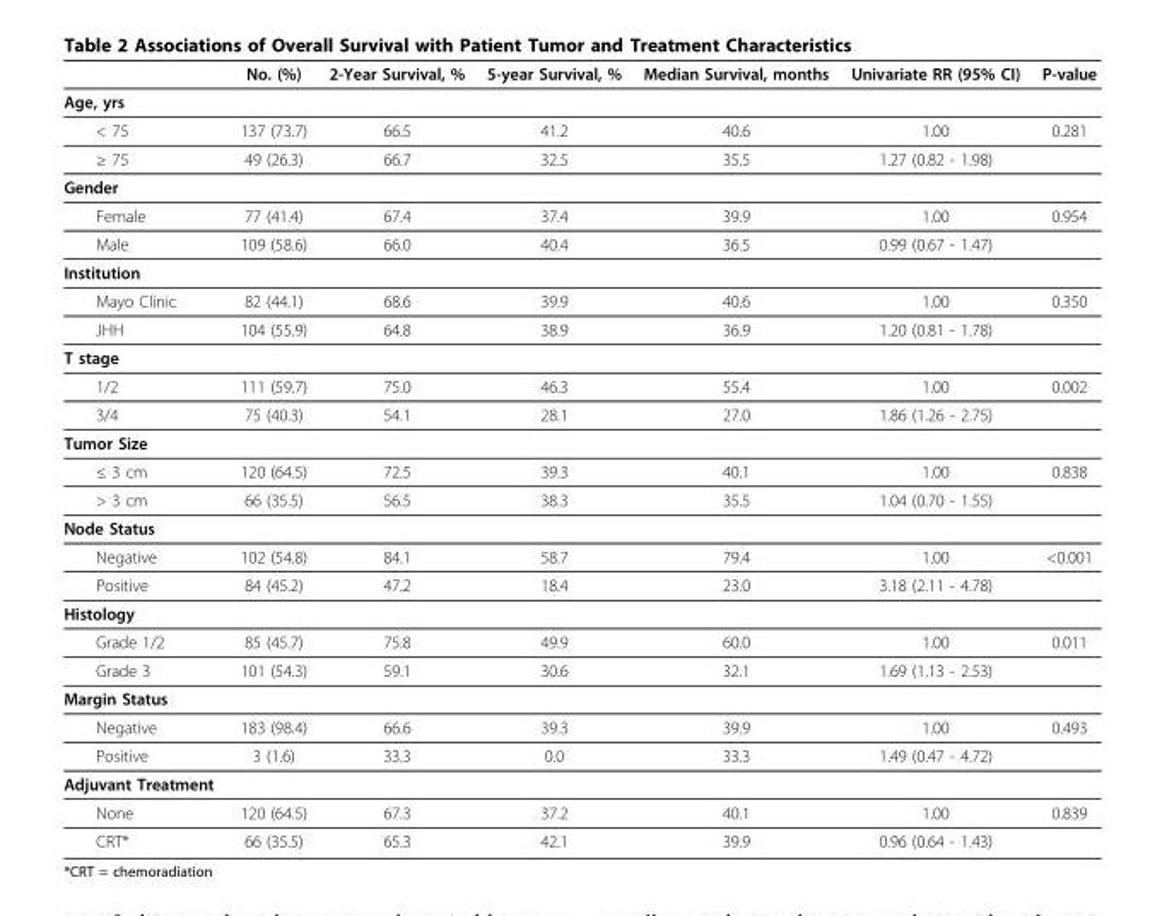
<table><thead><tr><td></td><td>No. (%)</td><td>2-Year Survival, %</td><td>5-year Survival, %</td><td>Median Survival, months</td><td>Univariate RR (95% CI)</td><td>P-value</td></tr></thead><tbody><tr><td colspan="7">Age, yrs</td></tr><tr><td>&lt; 75</td><td>137 (73.7)</td><td>66.5</td><td>41.2</td><td>40.6</td><td>1.00</td><td>0.281</td></tr><tr><td>≥ 75</td><td>49 (26.3)</td><td>66.7</td><td>32.5</td><td>35.5</td><td>1.27 (0.82 - 1.98)</td><td></td></tr><tr><td colspan="7">Gender</td></tr><tr><td>Female</td><td>77 (41.4)</td><td>67.4</td><td>37.4</td><td>39.9</td><td>1.00</td><td>0.954</td></tr><tr><td>Male</td><td>109 (58.6)</td><td>66.0</td><td>40.4</td><td>36.5</td><td>0.99 (0.67 - 1.47)</td><td></td></tr><tr><td colspan="7">Institution</td></tr><tr><td>Mayo Clinic</td><td>82 (44.1)</td><td>68.6</td><td>39.9</td><td>40.6</td><td>1.00</td><td>0.350</td></tr><tr><td>JHH</td><td>104 (55.9)</td><td>64.8</td><td>38.9</td><td>36.9</td><td>1.20 (0.81 - 1.78)</td><td></td></tr><tr><td colspan="7">T stage</td></tr><tr><td>1/2</td><td>111 (59.7)</td><td>75.0</td><td>46.3</td><td>55.4</td><td>1.00</td><td>0.002</td></tr><tr><td>3/4</td><td>75 (40.3)</td><td>54.1</td><td>28.1</td><td>27.0</td><td>1.86 (1.26 - 2.75)</td><td></td></tr><tr><td colspan="7">Tumor Size</td></tr><tr><td>≤ 3 cm</td><td>120 (64.5)</td><td>72.5</td><td>39.3</td><td>40.1</td><td>1.00</td><td>0.838</td></tr><tr><td>&gt; 3 cm</td><td>66 (35.5)</td><td>56.5</td><td>38.3</td><td>35.5</td><td>1.04 (0.70 - 1.55)</td><td></td></tr><tr><td colspan="7">Node Status</td></tr><tr><td>Negative</td><td>102 (54.8)</td><td>84.1</td><td>58.7</td><td>79.4</td><td>1.00</td><td>&lt;0.001</td></tr><tr><td>Positive</td><td>84 (45.2)</td><td>47.2</td><td>18.4</td><td>23.0</td><td>3.18 (2.11 - 4.78)</td><td></td></tr><tr><td colspan="7">Histology</td></tr><tr><td>Grade 1/2</td><td>85 (45.7)</td><td>75.8</td><td>49.9</td><td>60.0</td><td>1.00</td><td>0.011</td></tr><tr><td>Grade 3</td><td>101 (54.3)</td><td>59.1</td><td>30.6</td><td>32.1</td><td>1.69 (1.13 - 2.53)</td><td></td></tr><tr><td colspan="7">Margin Status</td></tr><tr><td>Negative</td><td>183 (98.4)</td><td>66.6</td><td>39.3</td><td>39.9</td><td>1.00</td><td>0.493</td></tr><tr><td>Positive</td><td>3 (1.6)</td><td>33.3</td><td>0.0</td><td>33.3</td><td>1.49 (0.47 - 4.72)</td><td></td></tr><tr><td colspan="7">Adjuvant Treatment</td></tr><tr><td>None</td><td>120 (64.5)</td><td>67.3</td><td>37.2</td><td>40.1</td><td>1.00</td><td>0.839</td></tr><tr><td>CRT*</td><td>66 (35.5)</td><td>65.3</td><td>42.1</td><td>39.9</td><td>0.96 (0.64 - 1.43)</td><td></td></tr></tbody></table>